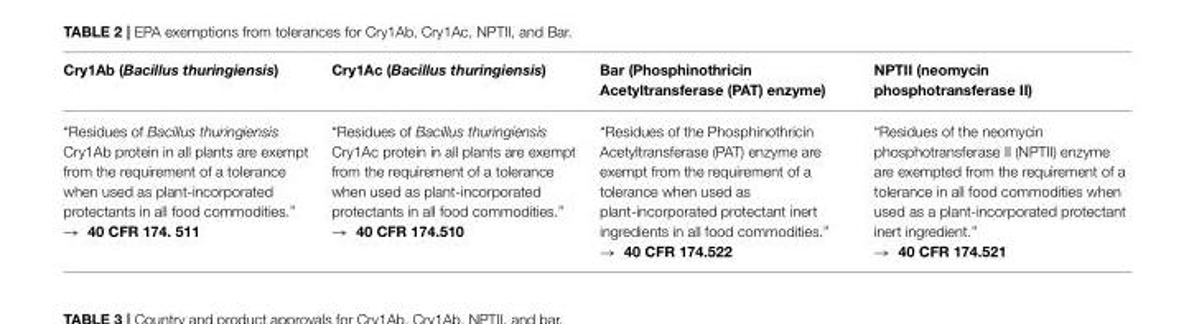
<table><thead><tr><td>Cry1Ab (Bacillus thuringiensis)</td><td>Cry1Ac (Bacillus thuringiensis)</td><td>Bar (Phosphinothricin Acetyltransferase (PAT) enzyme)</td><td>NPTII (neomycin phosphotransferase II)</td></tr></thead><tbody><tr><td>“Residues of Bacillus thuringiensis Cry1Ab protein in all plants are exempt from the requirement of a tolerance when used as plant-incorporated protectants in all food commodities.” → 40 CFR 174. 511</td><td>“Residues of Bacillus thuringiensis Cry1Ac protein in all plants are exempt from the requirement of a tolerance when used as plant-incorporated protectants in all food commodities.” → 40 CFR 174.510</td><td>“Residues of the Phosphinothricin Acetyltransferase (PAT) enzyme are exempt from the requirement of a tolerance when used as plant-incorporated protectant inert ingredients in all food commodities.” → 40 CFR 174.522</td><td>“Residues of the neomycin phosphotransferase II (NPTII) enzyme are exempted from the requirement of a tolerance in all food commodities when used as a plant-incorporated protectant inert ingredient.” → 40 CFR 174.521</td></tr></tbody></table>